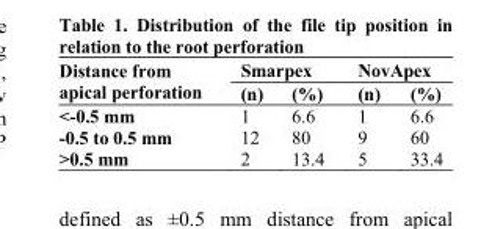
<table><thead><tr><td rowspan="2">Distance from apical perforation</td><td colspan="2">Smarpex</td><td colspan="2">NovApex</td></tr><tr><td>(n)</td><td>(%)</td><td>(n)</td><td>(%)</td></tr></thead><tbody><tr><td>&lt;-0.5 mm</td><td>1</td><td>6.6</td><td>1</td><td>6.6</td></tr><tr><td>-0.5 to 0.5 mm</td><td>12</td><td>80</td><td>9</td><td>60</td></tr><tr><td>&gt;0.5 mm</td><td>2</td><td>13.4</td><td>5</td><td>33.4</td></tr></tbody></table>